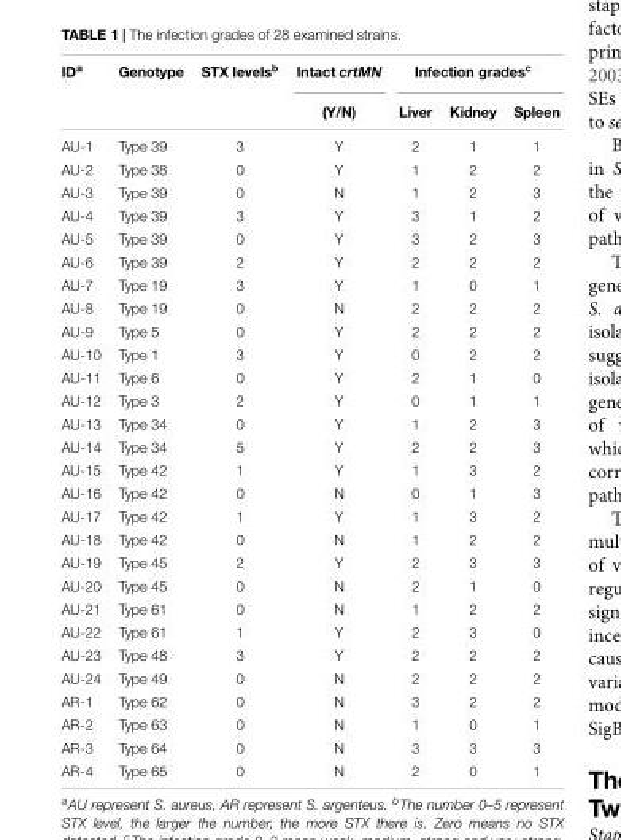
<table><thead><tr><td rowspan="2">ID<sup>a</sup></td><td rowspan="2">Genotype</td><td rowspan="2">STX levels<sup>b</sup></td><td rowspan="2">Intact crtMN (Y/N)</td><td colspan="3">Infection grades<sup>c</sup></td></tr><tr><td>Liver</td><td>Kidney</td><td>Spleen</td></tr></thead><tbody><tr><td>AU-1</td><td>Type 39</td><td>3</td><td>Y</td><td>2</td><td>1</td><td>1</td></tr><tr><td>AU-2</td><td>Type 38</td><td>0</td><td>Y</td><td>1</td><td>2</td><td>2</td></tr><tr><td>AU-3</td><td>Type 39</td><td>0</td><td>N</td><td>1</td><td>2</td><td>3</td></tr><tr><td>AU-4</td><td>Type 39</td><td>3</td><td>Y</td><td>3</td><td>1</td><td>2</td></tr><tr><td>AU-5</td><td>Type 39</td><td>0</td><td>Y</td><td>3</td><td>2</td><td>3</td></tr><tr><td>AU-6</td><td>Type 39</td><td>2</td><td>Y</td><td>2</td><td>2</td><td>2</td></tr><tr><td>AU-7</td><td>Type 19</td><td>3</td><td>Y</td><td>1</td><td>0</td><td>1</td></tr><tr><td>AU-8</td><td>Type 19</td><td>0</td><td>N</td><td>2</td><td>2</td><td>2</td></tr><tr><td>AU-9</td><td>Type 5</td><td>0</td><td>Y</td><td>2</td><td>2</td><td>2</td></tr><tr><td>AU-10</td><td>Type 1</td><td>3</td><td>Y</td><td>0</td><td>2</td><td>2</td></tr><tr><td>AU-11</td><td>Type 6</td><td>0</td><td>Y</td><td>2</td><td>1</td><td>0</td></tr><tr><td>AU-12</td><td>Type 3</td><td>2</td><td>Y</td><td>0</td><td>1</td><td>1</td></tr><tr><td>AU-13</td><td>Type 34</td><td>0</td><td>Y</td><td>1</td><td>2</td><td>3</td></tr><tr><td>AU-14</td><td>Type 34</td><td>5</td><td>Y</td><td>2</td><td>2</td><td>3</td></tr><tr><td>AU-15</td><td>Type 42</td><td>1</td><td>Y</td><td>1</td><td>3</td><td>2</td></tr><tr><td>AU-16</td><td>Type 42</td><td>0</td><td>N</td><td>0</td><td>1</td><td>3</td></tr><tr><td>AU-17</td><td>Type 42</td><td>1</td><td>Y</td><td>1</td><td>3</td><td>2</td></tr><tr><td>AU-18</td><td>Type 42</td><td>0</td><td>N</td><td>1</td><td>2</td><td>2</td></tr><tr><td>AU-19</td><td>Type 45</td><td>2</td><td>Y</td><td>2</td><td>3</td><td>3</td></tr><tr><td>AU-20</td><td>Type 45</td><td>0</td><td>N</td><td>2</td><td>1</td><td>0</td></tr><tr><td>AU-21</td><td>Type 61</td><td>0</td><td>N</td><td>1</td><td>2</td><td>2</td></tr><tr><td>AU-22</td><td>Type 61</td><td>1</td><td>Y</td><td>2</td><td>3</td><td>0</td></tr><tr><td>AU-23</td><td>Type 48</td><td>3</td><td>Y</td><td>2</td><td>2</td><td>2</td></tr><tr><td>AU-24</td><td>Type 49</td><td>0</td><td>N</td><td>2</td><td>2</td><td>2</td></tr><tr><td>AR-1</td><td>Type 62</td><td>0</td><td>N</td><td>3</td><td>2</td><td>2</td></tr><tr><td>AR-2</td><td>Type 63</td><td>0</td><td>N</td><td>1</td><td>0</td><td>1</td></tr><tr><td>AR-3</td><td>Type 64</td><td>0</td><td>N</td><td>3</td><td>3</td><td>3</td></tr><tr><td>AR-4</td><td>Type 65</td><td>0</td><td>N</td><td>2</td><td>0</td><td>1</td></tr></tbody></table>